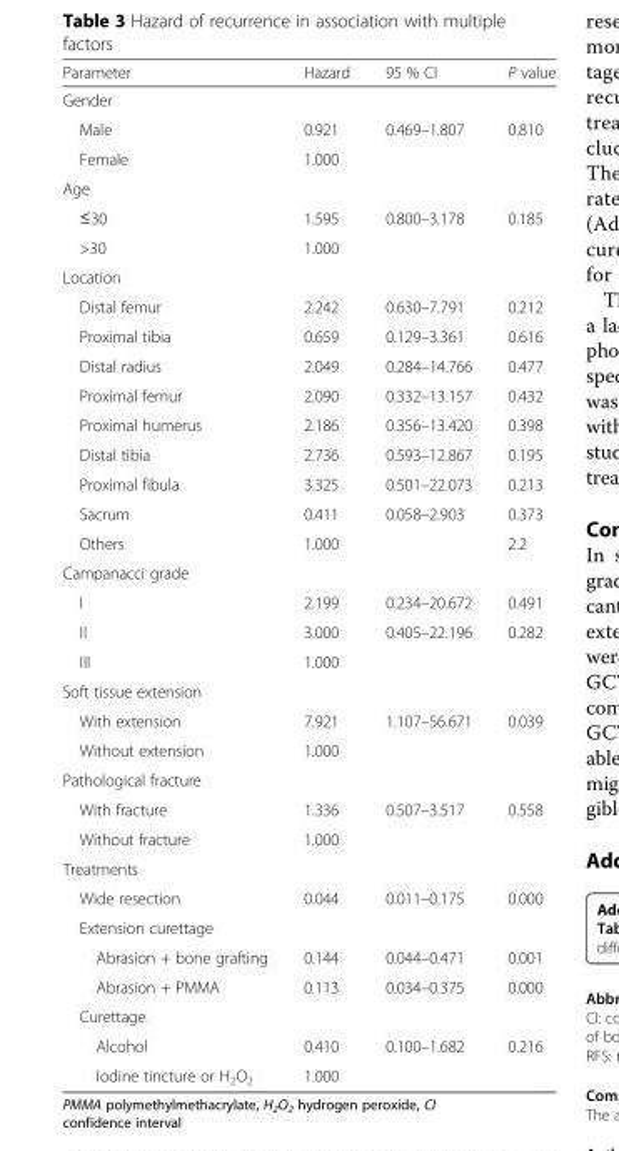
<table><thead><tr><td>Parameter</td><td>Hazard</td><td>95 % CI</td><td>P value</td></tr></thead><tbody><tr><td colspan="4">Gender</td></tr><tr><td>Male</td><td>0.921</td><td>0.469–1.807</td><td>0.810</td></tr><tr><td>Female</td><td>1.000</td><td></td><td></td></tr><tr><td colspan="4">Age</td></tr><tr><td>≤30</td><td>1.595</td><td>0.800–3.178</td><td>0.185</td></tr><tr><td>&gt;30</td><td>1.000</td><td></td><td></td></tr><tr><td colspan="4">Location</td></tr><tr><td>Distal femur</td><td>2.242</td><td>0.630–7.791</td><td>0.212</td></tr><tr><td>Proximal tibia</td><td>0.659</td><td>0.129–3.361</td><td>0.616</td></tr><tr><td>Distal radius</td><td>2.049</td><td>0.284–14.766</td><td>0.477</td></tr><tr><td>Proximal femur</td><td>2.090</td><td>0.332–13.157</td><td>0.432</td></tr><tr><td>Proximal humerus</td><td>2.186</td><td>0.356–13.420</td><td>0.398</td></tr><tr><td>Distal tibia</td><td>2.736</td><td>0.593–12.867</td><td>0.195</td></tr><tr><td>Proximal fibula</td><td>3.325</td><td>0.501–22.073</td><td>0.213</td></tr><tr><td>Sacrum</td><td>0.411</td><td>0.058–2.903</td><td>0.373</td></tr><tr><td>Others</td><td>1.000</td><td></td><td>2.2</td></tr><tr><td colspan="4">Campanacci grade</td></tr><tr><td>I</td><td>2.199</td><td>0.234–20.672</td><td>0.491</td></tr><tr><td>II</td><td>3.000</td><td>0.405–22.196</td><td>0.282</td></tr><tr><td>III</td><td>1.000</td><td></td><td></td></tr><tr><td colspan="4">Soft tissue extension</td></tr><tr><td>With extension</td><td>7.921</td><td>1.107–56.671</td><td>0.039</td></tr><tr><td>Without extension</td><td>1.000</td><td></td><td></td></tr><tr><td colspan="4">Pathological fracture</td></tr><tr><td>With fracture</td><td>1.336</td><td>0.507–3.517</td><td>0.558</td></tr><tr><td>Without fracture</td><td>1.000</td><td></td><td></td></tr><tr><td colspan="4">Treatments</td></tr><tr><td>Wide resection</td><td>0.044</td><td>0.011–0.175</td><td>0.000</td></tr><tr><td colspan="4">Extension curettage</td></tr><tr><td>Abrasion + bone grafting</td><td>0.144</td><td>0.044–0.471</td><td>0.001</td></tr><tr><td>Abrasion + PMMA</td><td>0.113</td><td>0.034–0.375</td><td>0.000</td></tr><tr><td colspan="4">Curettage</td></tr><tr><td>Alcohol</td><td>0.410</td><td>0.100–1.682</td><td>0.216</td></tr><tr><td>Iodine tincture or H<sub>2</sub>O<sub>2</sub></td><td>1.000</td><td></td><td></td></tr></tbody></table>